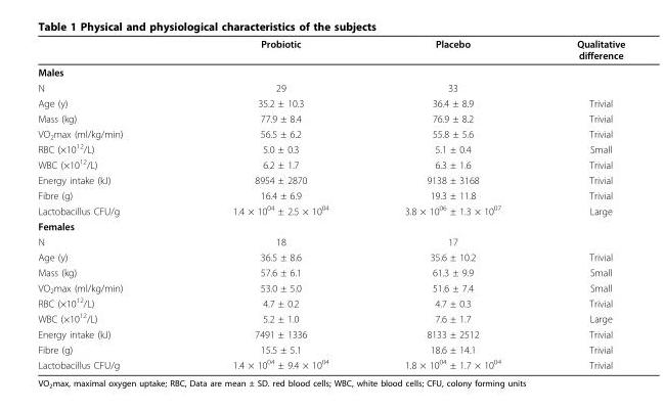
<table><thead><tr><td></td><td>Probiotic</td><td>Placebo</td><td>Qualitative difference</td></tr></thead><tbody><tr><td colspan="4">Males</td></tr><tr><td>N</td><td>29</td><td>33</td><td></td></tr><tr><td>Age (y)</td><td>35.2 ± 10.3</td><td>36.4 ± 8.9</td><td>Trivial</td></tr><tr><td>Mass (kg)</td><td>77.9 ± 8.4</td><td>76.9 ± 8.2</td><td>Trivial</td></tr><tr><td>VO<sub>2</sub>max (ml/kg/min)</td><td>56.5 ± 6.2</td><td>55.8 ± 5.6</td><td>Trivial</td></tr><tr><td>RBC (×10<sup>12</sup>/L)</td><td>5.0 ± 0.3</td><td>5.1 ± 0.4</td><td>Small</td></tr><tr><td>WBC (×10<sup>12</sup>/L)</td><td>6.2 ± 1.7</td><td>6.3 ± 1.6</td><td>Trivial</td></tr><tr><td>Energy intake (kJ)</td><td>8954 ± 2870</td><td>9138 ± 3168</td><td>Trivial</td></tr><tr><td>Fibre (g)</td><td>16.4 ± 6.9</td><td>19.3 ± 11.8</td><td>Trivial</td></tr><tr><td>Lactobacillus CFU/g</td><td>1.4 × 10<sup>04</sup> ± 2.5 × 10<sup>04</sup></td><td>3.8 × 10<sup>06</sup> ± 1.3 × 10<sup>07</sup></td><td>Large</td></tr><tr><td colspan="4">Females</td></tr><tr><td>N</td><td>18</td><td>17</td><td></td></tr><tr><td>Age (y)</td><td>36.5 ± 8.6</td><td>35.6 ± 10.2</td><td>Trivial</td></tr><tr><td>Mass (kg)</td><td>57.6 ± 6.1</td><td>61.3 ± 9.9</td><td>Small</td></tr><tr><td>VO<sub>2</sub>max (ml/kg/min)</td><td>53.0 ± 5.0</td><td>51.6 ± 7.4</td><td>Small</td></tr><tr><td>RBC (×10<sup>12</sup>/L)</td><td>4.7 ± 0.2</td><td>4.7 ± 0.3</td><td>Trivial</td></tr><tr><td>WBC (×10<sup>12</sup>/L)</td><td>5.2 ± 1.0</td><td>7.6 ± 1.7</td><td>Large</td></tr><tr><td>Energy intake (kJ)</td><td>7491 ± 1336</td><td>8133 ± 2512</td><td>Trivial</td></tr><tr><td>Fibre (g)</td><td>15.5 ± 5.1</td><td>18.6 ± 14.1</td><td>Trivial</td></tr><tr><td>Lactobacillus CFU/g</td><td>1.4 × 10<sup>04</sup> ± 9.4 × 10<sup>04</sup></td><td>1.8 × 10<sup>04</sup> ± 1.7 × 10<sup>04</sup></td><td>Trivial</td></tr></tbody></table>